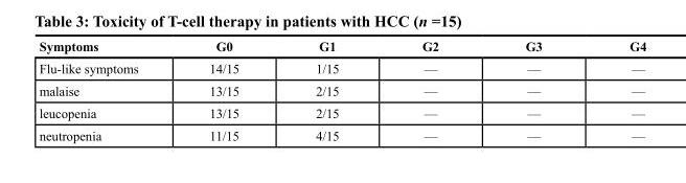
<table><thead><tr><td>Symptoms</td><td>G0</td><td>G1</td><td>G2</td><td>G3</td><td>G4</td></tr></thead><tbody><tr><td>Flu-like symptoms</td><td>14/15</td><td>1/15</td><td>—</td><td>—</td><td>—</td></tr><tr><td>malaise</td><td>13/15</td><td>2/15</td><td>—</td><td>—</td><td>—</td></tr><tr><td>leucopenia</td><td>13/15</td><td>2/15</td><td>—</td><td>—</td><td>—</td></tr><tr><td>neutropenia</td><td>11/15</td><td>4/15</td><td>—</td><td>—</td><td>—</td></tr></tbody></table>